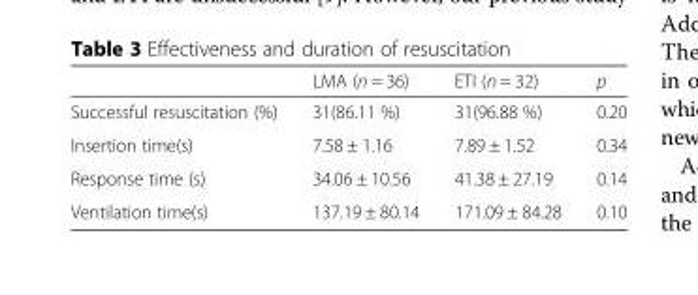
<table><thead><tr><td></td><td>LMA (n = 36)</td><td>ETI (n = 32)</td><td>p</td></tr></thead><tbody><tr><td>Successful resuscitation (%)</td><td>31(86.11 %)</td><td>31(96.88 %)</td><td>0.20</td></tr><tr><td>Insertion time(s)</td><td>7.58 ± 1.16</td><td>7.89 ± 1.52</td><td>0.34</td></tr><tr><td>Response time (s)</td><td>34.06 ± 10.56</td><td>41.38 ± 27.19</td><td>0.14</td></tr><tr><td>Ventilation time(s)</td><td>137.19 ± 80.14</td><td>171.09 ± 84.28</td><td>0.10</td></tr></tbody></table>